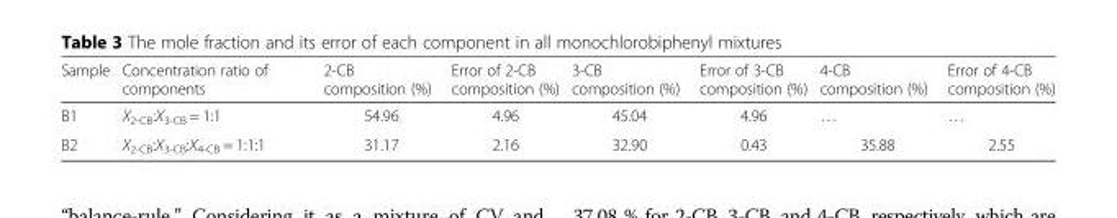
<table><thead><tr><td>Sample</td><td>Concentration ratio of components</td><td>2-CB composition (%)</td><td>Error of 2-CB composition (%)</td><td>3-CB composition (%)</td><td>Error of 3-CB composition (%)</td><td>4-CB composition (%)</td><td>Error of 4-CB composition (%)</td></tr></thead><tbody><tr><td>B1</td><td>X<sub>2-CB</sub>:X<sub>3-CB</sub> = 1:1</td><td>54.96</td><td>4.96</td><td>45.04</td><td>4.96</td><td>…</td><td>…</td></tr><tr><td>B2</td><td>X<sub>2-CB</sub>:X<sub>3-CB</sub>:X<sub>4-CB</sub> = 1:1:1</td><td>31.17</td><td>2.16</td><td>32.90</td><td>0.43</td><td>35.88</td><td>2.55</td></tr></tbody></table>